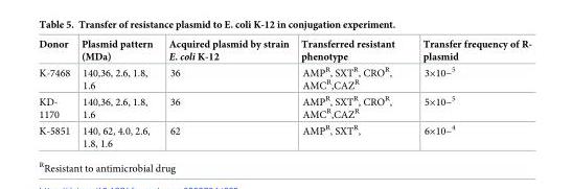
<table><thead><tr><td>Donor</td><td>Plasmid pattern (MDa)</td><td>Acquired plasmid by strain E. coli K-12</td><td>Transferred resistant phenotype</td><td>Transfer frequency of R- plasmid</td></tr></thead><tbody><tr><td>K-7468</td><td>140,36, 2.6, 1.8, 1.6</td><td>36</td><td>AMP<sup>R</sup>, SXT<sup>R</sup>, CRO<sup>R</sup>, AMC<sup>R</sup>,CAZ<sup>R</sup></td><td>3×10−<sup>5</sup></td></tr><tr><td>KD- 1170</td><td>140,36, 2.6, 1.8, 1.6</td><td>36</td><td>AMP<sup>R</sup>, SXT<sup>R</sup>, CRO<sup>R</sup>, AMC<sup>R</sup>,CAZ<sup>R</sup></td><td>5×10−<sup>5</sup></td></tr><tr><td>K-5851</td><td>140, 62, 4.0, 2.6, 1.8, 1.6</td><td>62</td><td>AMP<sup>R</sup>, SXT<sup>R</sup>,</td><td>6×10−<sup>4</sup></td></tr></tbody></table>